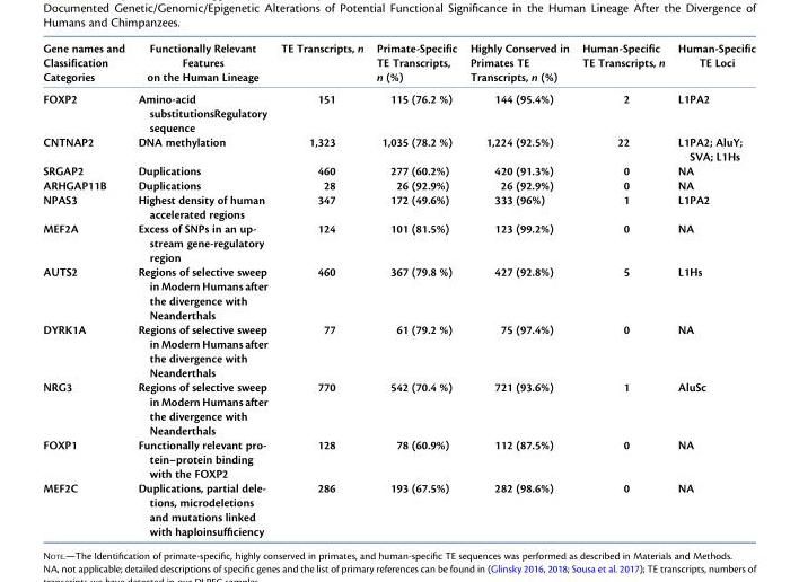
<table><thead><tr><td>Gene names and Classification Categories</td><td>Functionally Relevant Features on the Human Lineage</td><td>TE Transcripts, n</td><td>Primate-Specific TE Transcripts, n (%)</td><td>Highly Conserved in Primates TE Transcripts, n (%)</td><td>Human-Specific TE Transcripts, n</td><td>Human-Specific TE Loci</td></tr></thead><tbody><tr><td>FOXP2</td><td>Amino-acid substitutionsRegulatory sequence</td><td>151</td><td>115 (76.2 %)</td><td>144 (95.4%)</td><td>2</td><td>L1PA2</td></tr><tr><td>CNTNAP2</td><td>DNA methylation</td><td>1,323</td><td>1,035 (78.2 %)</td><td>1,224 (92.5%)</td><td>22</td><td>L1PA2; AluY; SVA; L1Hs</td></tr><tr><td>SRGAP2</td><td>Duplications</td><td>460</td><td>277 (60.2%)</td><td>420 (91.3%)</td><td>0</td><td>NA</td></tr><tr><td>ARHGAP11B</td><td>Duplications</td><td>28</td><td>26 (92.9%)</td><td>26 (92.9%)</td><td>0</td><td>NA</td></tr><tr><td>NPAS3</td><td>Highest density of human accelerated regions</td><td>347</td><td>172 (49.6%)</td><td>333 (96%)</td><td>1</td><td>L1PA2</td></tr><tr><td>MEF2A</td><td>Excess of SNPs in an up- stream gene-regulatory region</td><td>124</td><td>101 (81.5%)</td><td>123 (99.2%)</td><td>0</td><td>NA</td></tr><tr><td>AUTS2</td><td>Regions of selective sweep inModern Humans after the divergence with Neanderthals</td><td>460</td><td>367 (79.8 %)</td><td>427 (92.8%)</td><td>5</td><td>L1Hs</td></tr><tr><td>DYRK1A</td><td>Regions of selective sweep inModern Humans after the divergence with Neanderthals</td><td>77</td><td>61 (79.2 %)</td><td>75 (97.4%)</td><td>0</td><td>NA</td></tr><tr><td>NRG3</td><td>Regions of selective sweep inModern Humans after the divergence with Neanderthals</td><td>770</td><td>542 (70.4 %)</td><td>721 (93.6%)</td><td>1</td><td>AluSc</td></tr><tr><td>FOXP1</td><td>Functionally relevant pro- tein–protein binding with the FOXP2</td><td>128</td><td>78 (60.9%)</td><td>112 (87.5%)</td><td>0</td><td>NA</td></tr><tr><td>MEF2C</td><td>Duplications, partial dele- tions, microdeletions and mutations linked with haploinsufficiency</td><td>286</td><td>193 (67.5%)</td><td>282 (98.6%)</td><td>0</td><td>NA</td></tr></tbody></table>